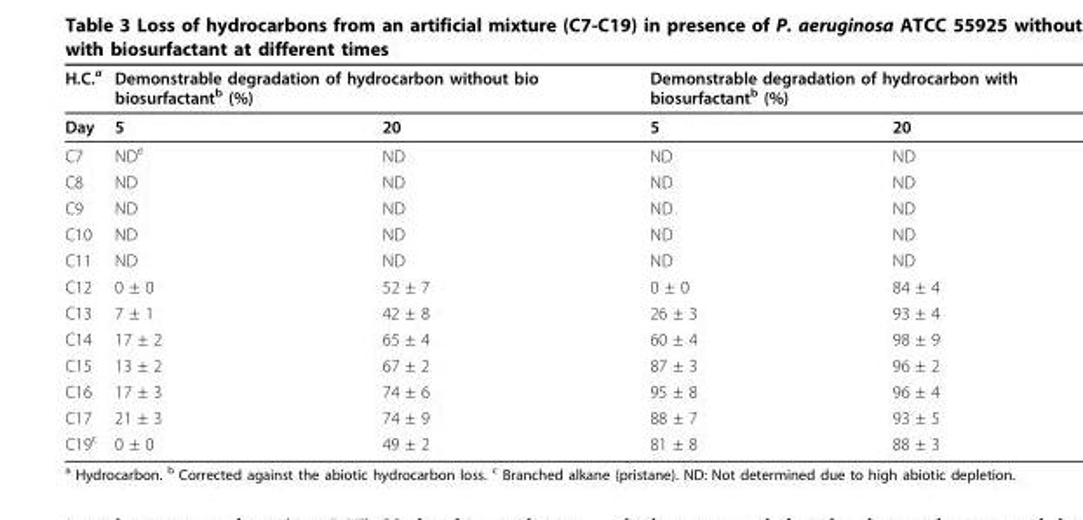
<table><thead><tr><td rowspan="2">H.C.a Day</td><td colspan="2">Demonstrable degradation of hydrocarbon without bio biosurfactantb (%)</td><td colspan="2">Demonstrable degradation of hydrocarbon with biosurfactantb (%)</td></tr><tr><td>5</td><td>20</td><td>5</td><td>20</td></tr></thead><tbody><tr><td>C7</td><td>ND<sup>e</sup></td><td>ND</td><td>ND</td><td>ND</td></tr><tr><td>C8</td><td>ND</td><td>ND</td><td>ND</td><td>ND</td></tr><tr><td>C9</td><td>ND</td><td>ND</td><td>ND</td><td>ND</td></tr><tr><td>C10</td><td>ND</td><td>ND</td><td>ND</td><td>ND</td></tr><tr><td>C11</td><td>ND</td><td>ND</td><td>ND</td><td>ND</td></tr><tr><td>C12</td><td>0 ± 0</td><td>52 ± 7</td><td>0 ± 0</td><td>84 ± 4</td></tr><tr><td>C13</td><td>7 ± 1</td><td>42 ± 8</td><td>26 ± 3</td><td>93 ± 4</td></tr><tr><td>C14</td><td>17 ± 2</td><td>65 ± 4</td><td>60 ± 4</td><td>98 ± 9</td></tr><tr><td>C15</td><td>13 ± 2</td><td>67 ± 2</td><td>87 ± 3</td><td>96 ± 2</td></tr><tr><td>C16</td><td>17 ± 3</td><td>74 ± 6</td><td>95 ± 8</td><td>96 ± 4</td></tr><tr><td>C17</td><td>21 ± 3</td><td>74 ± 9</td><td>88 ± 7</td><td>93 ± 5</td></tr><tr><td>C19<sup>c</sup></td><td>0 ± 0</td><td>49 ± 2</td><td>81 ± 8</td><td>88 ± 3</td></tr></tbody></table>